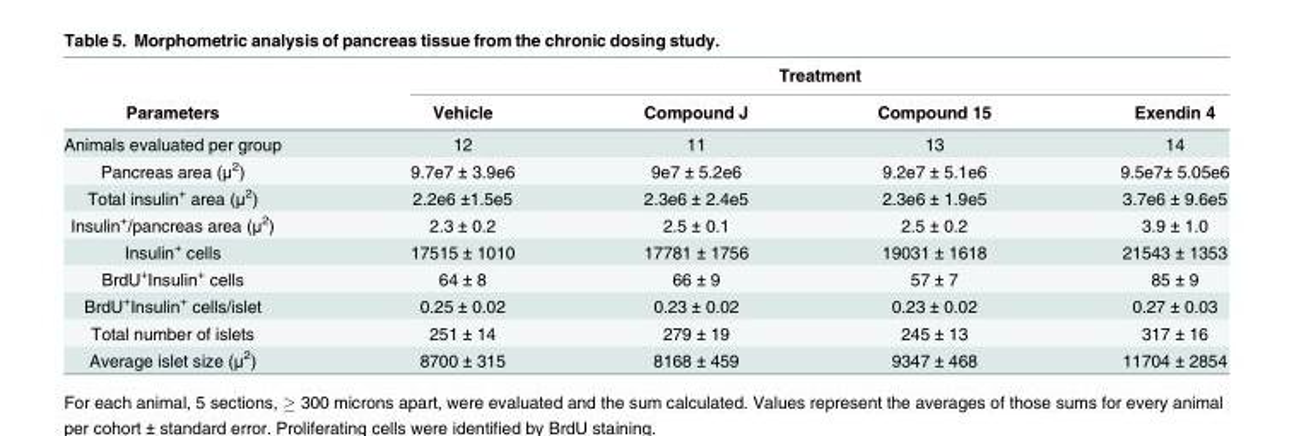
<table><thead><tr><td rowspan="2">Parameters</td><td colspan="4">Treatment</td></tr><tr><td>Vehicle</td><td>Compound J</td><td>Compound 15</td><td>Exendin 4</td></tr></thead><tbody><tr><td>Animals evaluated per group</td><td>12</td><td>11</td><td>13</td><td>14</td></tr><tr><td>Pancreas area (μ<sup>2</sup>)</td><td>9.7e7 ± 3.9e6</td><td>9e7 ± 5.2e6</td><td>9.2e7 ± 5.1e6</td><td>9.5e7± 5.05e6</td></tr><tr><td>Total insulin<sup>+</sup> area (μ<sup>2</sup>)</td><td>2.2e6 ±1.5e5</td><td>2.3e6 ± 2.4e5</td><td>2.3e6 ± 1.9e5</td><td>3.7e6 ± 9.6e5</td></tr><tr><td>Insulin<sup>+</sup>/pancreas area (μ<sup>2</sup>)</td><td>2.3 ± 0.2</td><td>2.5 ± 0.1</td><td>2.5 ± 0.2</td><td>3.9 ± 1.0</td></tr><tr><td>Insulin<sup>+</sup> cells</td><td>17515 ± 1010</td><td>17781 ± 1756</td><td>19031 ± 1618</td><td>21543 ± 1353</td></tr><tr><td>BrdU<sup>+</sup>Insulin<sup>+</sup> cells</td><td>64 ± 8</td><td>66 ± 9</td><td>57 ± 7</td><td>85 ± 9</td></tr><tr><td>BrdU<sup>+</sup>Insulin<sup>+</sup> cells/islet</td><td>0.25 ± 0.02</td><td>0.23 ± 0.02</td><td>0.23 ± 0.02</td><td>0.27 ± 0.03</td></tr><tr><td>Total number of islets</td><td>251 ± 14</td><td>279 ± 19</td><td>245 ± 13</td><td>317 ± 16</td></tr><tr><td>Average islet size (μ<sup>2</sup>)</td><td>8700 ± 315</td><td>8168 ± 459</td><td>9347 ± 468</td><td>11704 ± 2854</td></tr></tbody></table>